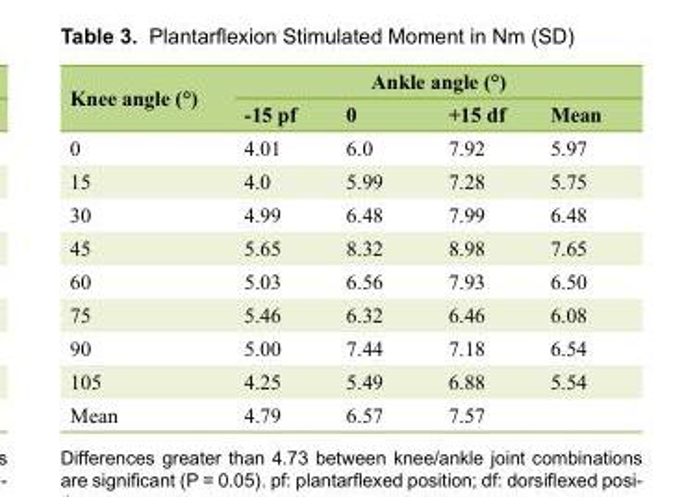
<table><thead><tr><td rowspan="2">Knee angle (°)</td><td colspan="4">Ankle angle (°)</td></tr><tr><td>-15 pf</td><td>0</td><td>+15 df</td><td>Mean</td></tr></thead><tbody><tr><td>0</td><td>4.01</td><td>6.0</td><td>7.92</td><td>5.97</td></tr><tr><td>15</td><td>4.0</td><td>5.99</td><td>7.28</td><td>5.75</td></tr><tr><td>30</td><td>4.99</td><td>6.48</td><td>7.99</td><td>6.48</td></tr><tr><td>45</td><td>5.65</td><td>8.32</td><td>8.98</td><td>7.65</td></tr><tr><td>60</td><td>5.03</td><td>6.56</td><td>7.93</td><td>6.50</td></tr><tr><td>75</td><td>5.46</td><td>6.32</td><td>6.46</td><td>6.08</td></tr><tr><td>90</td><td>5.00</td><td>7.44</td><td>7.18</td><td>6.54</td></tr><tr><td>105</td><td>4.25</td><td>5.49</td><td>6.88</td><td>5.54</td></tr><tr><td>Mean</td><td>4.79</td><td>6.57</td><td>7.57</td><td></td></tr></tbody></table>